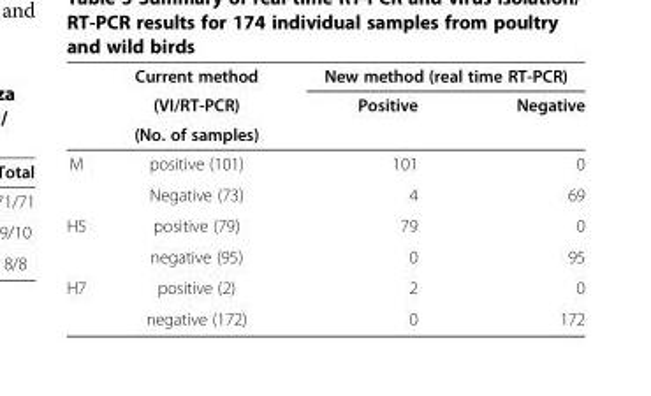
<table><thead><tr><td rowspan="3"></td><td rowspan="3">Current method (VI/RT-PCR) (No. of samples)</td><td colspan="2">New method (real time RT-PCR)</td></tr><tr><td rowspan="2">Positive</td><td rowspan="2">Negative</td></tr><tr></tr></thead><tbody><tr><td rowspan="2">M</td><td>positive (101)</td><td>101</td><td>0</td></tr><tr><td>Negative (73)</td><td>4</td><td>69</td></tr><tr><td rowspan="2">H5</td><td>positive (79)</td><td>79</td><td>0</td></tr><tr><td>negative (95)</td><td>0</td><td>95</td></tr><tr><td rowspan="2">H7</td><td>positive (2)</td><td>2</td><td>0</td></tr><tr><td>negative (172)</td><td>0</td><td>172</td></tr></tbody></table>